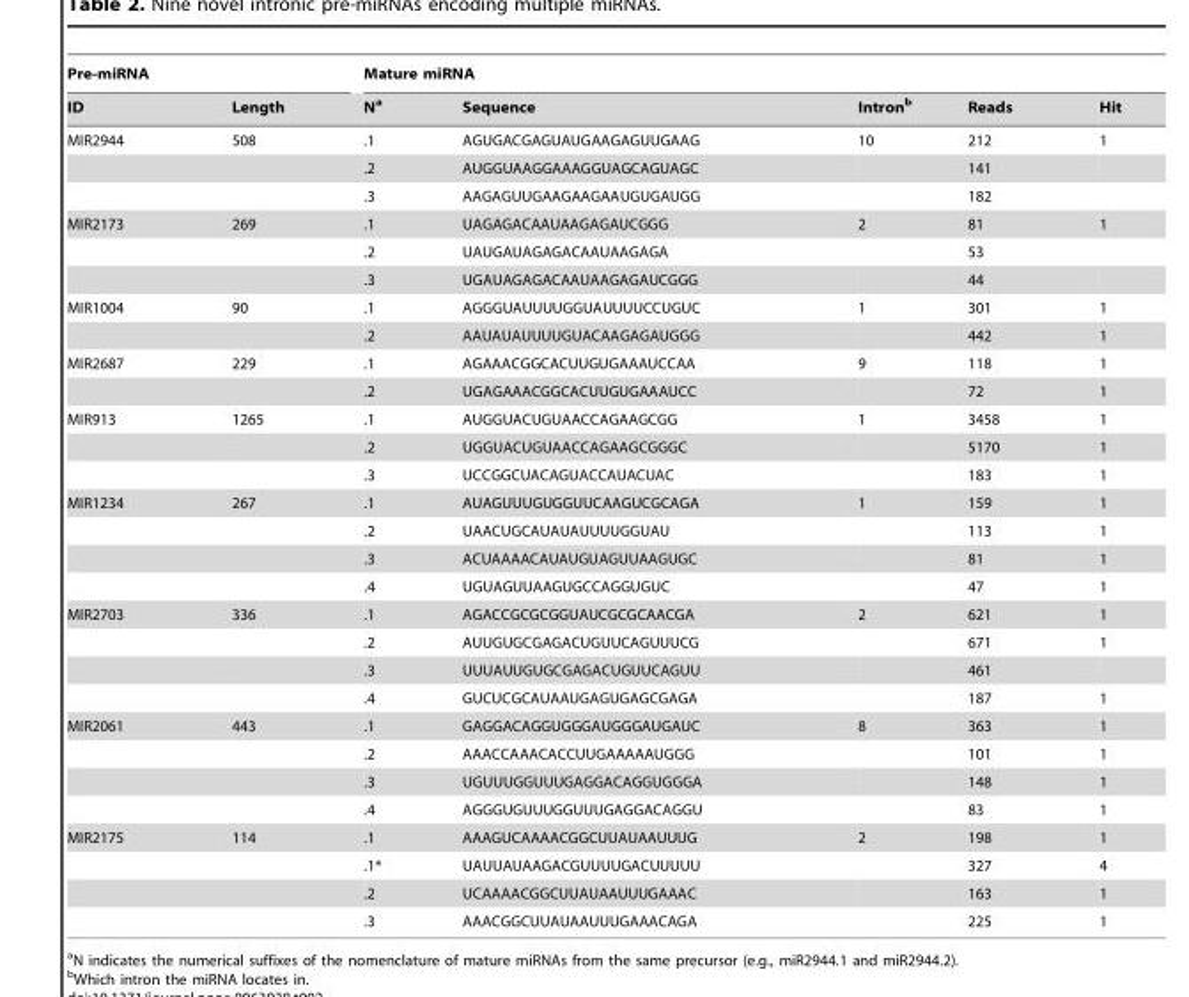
<table><thead><tr><td colspan="2">Pre-miRNA</td><td colspan="5">Mature miRNA</td></tr><tr><td>ID</td><td>Length</td><td>N<sup>a</sup></td><td>Sequence</td><td>Intron<sup>b</sup></td><td>Reads</td><td>Hit</td></tr></thead><tbody><tr><td rowspan="3">MIR2944</td><td>508</td><td>.1</td><td>AGUGACGAGUAUGAAGAGUUGAAG</td><td>10</td><td>212</td><td>1</td></tr><tr><td></td><td>.2</td><td>AUGGUAAGGAAAGGUAGCAGUAGC</td><td></td><td>141</td><td></td></tr><tr><td></td><td>.3</td><td>AAGAGUUGAAGAAGAAUGUGAUGG</td><td></td><td>182</td><td></td></tr><tr><td rowspan="3">MIR2173</td><td>269</td><td>.1</td><td>UAGAGACAAUAAGAGAUCGGG</td><td>2</td><td>81</td><td>1</td></tr><tr><td></td><td>.2</td><td>UAUGAUAGAGACAAUAAGAGA</td><td></td><td>53</td><td></td></tr><tr><td></td><td>.3</td><td>UGAUAGAGACAAUAAGAGAUCGGG</td><td></td><td>44</td><td></td></tr><tr><td rowspan="2">MIR1004</td><td>90</td><td>.1</td><td>AGGGUAUUUUGGUAUUUUCCUGUC</td><td>1</td><td>301</td><td>1</td></tr><tr><td></td><td>.2</td><td>AAUAUAUUUUGUACAAGAGAUGGG</td><td></td><td>442</td><td>1</td></tr><tr><td rowspan="2">MIR2687</td><td>229</td><td>.1</td><td>AGAAACGGCACUUGUGAAAUCCAA</td><td>9</td><td>118</td><td>1</td></tr><tr><td></td><td>.2</td><td>UGAGAAACGGCACUUGUGAAAUCC</td><td></td><td>72</td><td>1</td></tr><tr><td rowspan="3">MIR913</td><td>1265</td><td>.1</td><td>AUGGUACUGUAACCAGAAGCGG</td><td>1</td><td>3458</td><td>1</td></tr><tr><td></td><td>.2</td><td>UGGUACUGUAACCAGAAGCGGGC</td><td></td><td>5170</td><td>1</td></tr><tr><td></td><td>.3</td><td>UCCGGCUACAGUACCAUACUAC</td><td></td><td>183</td><td>1</td></tr><tr><td rowspan="4">MIR1234</td><td>267</td><td>.1</td><td>AUAGUUUGUGGUUCAAGUCGCAGA</td><td>1</td><td>159</td><td>1</td></tr><tr><td></td><td>.2</td><td>UAACUGCAUAUAUUUUGGUAU</td><td></td><td>113</td><td>1</td></tr><tr><td></td><td>.3</td><td>ACUAAAACAUAUGUAGUUAAGUGC</td><td></td><td>81</td><td>1</td></tr><tr><td></td><td>.4</td><td>UGUAGUUAAGUGCCAGGUGUC</td><td></td><td>47</td><td>1</td></tr><tr><td rowspan="4">MIR2703</td><td>336</td><td>.1</td><td>AGACCGCGCGGUAUCGCGCAACGA</td><td>2</td><td>621</td><td>1</td></tr><tr><td></td><td>.2</td><td>AUUGUGCGAGACUGUUCAGUUUCG</td><td></td><td>671</td><td>1</td></tr><tr><td></td><td>.3</td><td>UUUAUUGUGCGAGACUGUUCAGUU</td><td></td><td>461</td><td></td></tr><tr><td></td><td>.4</td><td>GUCUCGCAUAAUGAGUGAGCGAGA</td><td></td><td>187</td><td>1</td></tr><tr><td rowspan="4">MIR2061</td><td>443</td><td>.1</td><td>GAGGACAGGUGGGAUGGGAUGAUC</td><td>8</td><td>363</td><td>1</td></tr><tr><td></td><td>.2</td><td>AAACCAAACACCUUGAAAAAUGGG</td><td></td><td>101</td><td>1</td></tr><tr><td></td><td>.3</td><td>UGUUUGGUUUGAGGACAGGUGGGA</td><td></td><td>148</td><td>1</td></tr><tr><td></td><td>.4</td><td>AGGGUGUUUGGUUUGAGGACAGGU</td><td></td><td>83</td><td>1</td></tr><tr><td rowspan="4">MIR2175</td><td>114</td><td>.1</td><td>AAAGUCAAAACGGCUUAUAAUUUG</td><td>2</td><td>198</td><td>1</td></tr><tr><td></td><td>.1*</td><td>UAUUAUAAGACGUUUUGACUUUUU</td><td></td><td>327</td><td>4</td></tr><tr><td></td><td>.2</td><td>UCAAAACGGCUUAUAAUUUGAAAC</td><td></td><td>163</td><td>1</td></tr><tr><td></td><td>.3</td><td>AAACGGCUUAUAAUUUGAAACAGA</td><td></td><td>225</td><td>1</td></tr></tbody></table>